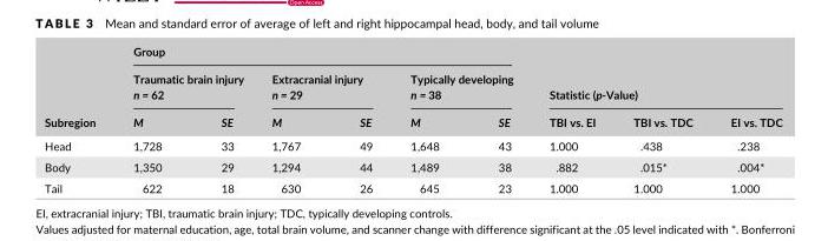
<table><thead><tr><td rowspan="3">Subregion</td><td colspan="6">Group</td><td></td><td></td><td></td></tr><tr><td colspan="2">Traumatic brain injury n = 62</td><td colspan="2">Extracranial injury n = 29</td><td colspan="2">Typically developing n = 38</td><td colspan="3">Statistic (p-Value)</td></tr><tr><td>M</td><td>SE</td><td>M</td><td>SE</td><td>M</td><td>SE</td><td>TBI vs. EI</td><td>TBI vs. TDC</td><td>EI vs. TDC</td></tr></thead><tbody><tr><td>Head</td><td>1,728</td><td>33</td><td>1,767</td><td>49</td><td>1,648</td><td>43</td><td>1.000</td><td>.438</td><td>.238</td></tr><tr><td>Body</td><td>1,350</td><td>29</td><td>1,294</td><td>44</td><td>1,489</td><td>38</td><td>.882</td><td>.015*</td><td>.004*</td></tr><tr><td>Tail</td><td>622</td><td>18</td><td>630</td><td>26</td><td>645</td><td>23</td><td>1.000</td><td>1.000</td><td>1.000</td></tr></tbody></table>